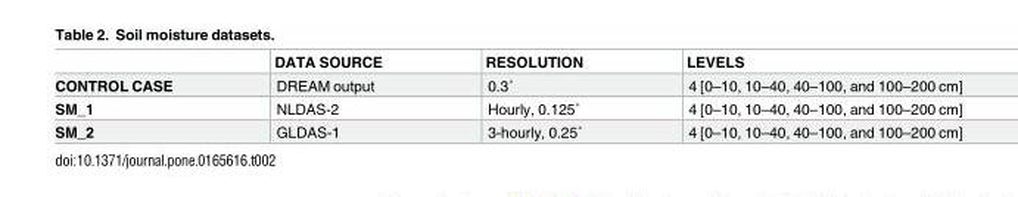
<table><thead><tr><td></td><td>DATA SOURCE</td><td>RESOLUTION</td><td>LEVELS</td></tr></thead><tbody><tr><td>CONTROL CASE</td><td>DREAM output</td><td>0.3˚</td><td>4 [0–10, 10–40, 40–100, and 100–200 cm]</td></tr><tr><td>SM_1</td><td>NLDAS-2</td><td>Hourly, 0.125˚</td><td>4 [0–10, 10–40, 40–100, and 100–200 cm]</td></tr><tr><td>SM_2</td><td>GLDAS-1</td><td>3-hourly, 0.25˚</td><td>4 [0–10, 10–40, 40–100, and 100–200 cm]</td></tr></tbody></table>